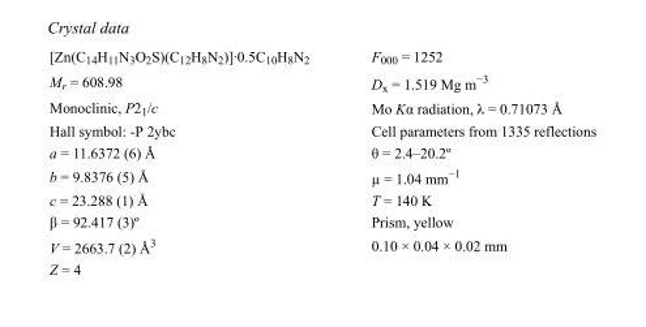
<table><tbody><tr><td>[Zn(C<sub>14</sub>H<sub>11</sub>N<sub>3</sub>O<sub>2</sub>S)(C<sub>12</sub>H<sub>8</sub>N<sub>2</sub>)]·0.5C<sub>10</sub>H<sub>8</sub>N<sub>2</sub></td><td>F000 = 1252</td></tr><tr><td>M<sub>r</sub> = 608.98</td><td>D<sub>x</sub> = 1.519 Mg m<sup>−3</sup></td></tr><tr><td>Monoclinic, P2<sub>1</sub>/c</td><td>Mo Kα radiation, λ = 0.71073 Å</td></tr><tr><td>Hall symbol: -P 2ybc</td><td>Cell parameters from 1335 reflections</td></tr><tr><td>a = 11.6372 (6) Å</td><td>θ = 2.4–20.2º</td></tr><tr><td>b = 9.8376 (5) Å</td><td>µ = 1.04 mm<sup>−1</sup></td></tr><tr><td>c = 23.288 (1) Å</td><td>T = 140 K</td></tr><tr><td>β = 92.417 (3)º</td><td>Prism, yellow</td></tr><tr><td>V = 2663.7 (2) Å<sup>3</sup></td><td>0.10 × 0.04 × 0.02 mm</td></tr><tr><td>Z = 4</td><td></td></tr></tbody></table>